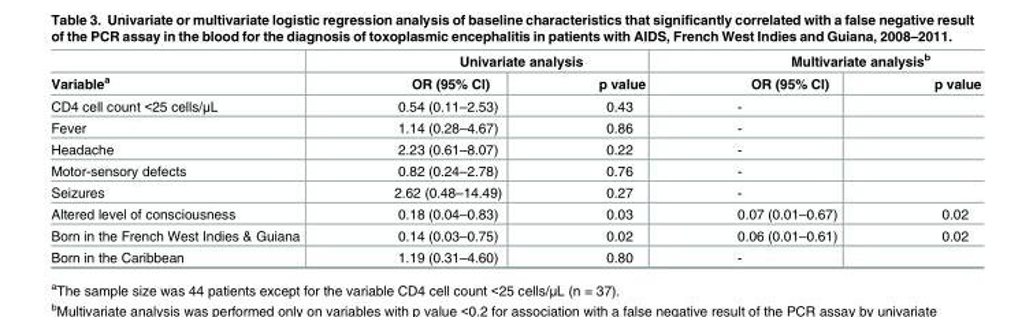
<table><thead><tr><td rowspan="2">Variable<sup>a</sup></td><td colspan="2">Univariate analysis</td><td colspan="2">Multivariate analysis<sup>b</sup></td></tr><tr><td>OR (95% CI)</td><td>p value</td><td>OR (95% CI)</td><td>p value</td></tr></thead><tbody><tr><td>CD4 cell count &lt;25 cells/μL</td><td>0.54 (0.11–2.53)</td><td>0.43</td><td>-</td><td></td></tr><tr><td>Fever</td><td>1.14 (0.28–4.67)</td><td>0.86</td><td>-</td><td></td></tr><tr><td>Headache</td><td>2.23 (0.61–8.07)</td><td>0.22</td><td>-</td><td></td></tr><tr><td>Motor-sensory defects</td><td>0.82 (0.24–2.78)</td><td>0.76</td><td>-</td><td></td></tr><tr><td>Seizures</td><td>2.62 (0.48–14.49)</td><td>0.27</td><td>-</td><td></td></tr><tr><td>Altered level of consciousness</td><td>0.18 (0.04–0.83)</td><td>0.03</td><td>0.07 (0.01–0.67)</td><td>0.02</td></tr><tr><td>Born in the French West Indies &amp; Guiana</td><td>0.14 (0.03–0.75)</td><td>0.02</td><td>0.06 (0.01–0.61)</td><td>0.02</td></tr><tr><td>Born in the Caribbean</td><td>1.19 (0.31–4.60)</td><td>0.80</td><td>-</td><td></td></tr></tbody></table>